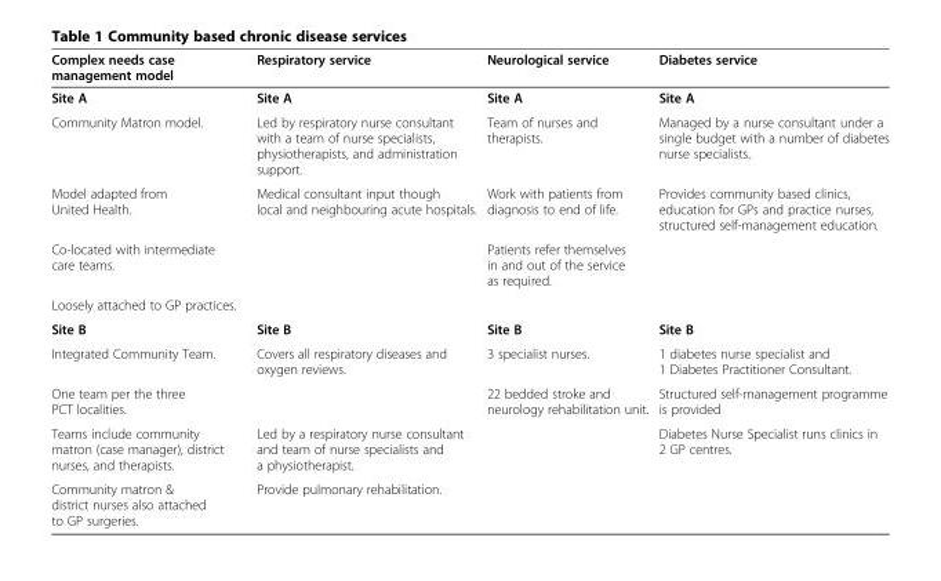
<table><thead><tr><td>Complex needs case management model</td><td>Respiratory service</td><td>Neurological service</td><td>Diabetes service</td></tr></thead><tbody><tr><td>Site A</td><td>Site A</td><td>Site A</td><td>Site A</td></tr><tr><td>Community Matron model.</td><td>Led by respiratory nurse consultant with a team of nurse specialists, physiotherapists, and administration support.</td><td>Team of nurses and therapists.</td><td>Managed by a nurse consultant under a single budget with a number of diabetes nurse specialists.</td></tr><tr><td>Model adapted from United Health.</td><td>Medical consultant input though local and neighbouring acute hospitals.</td><td>Work with patients from diagnosis to end of life.</td><td>Provides community based clinics, education for GPs and practice nurses, structured self-management education.</td></tr><tr><td>Co-located with intermediate care teams.</td><td></td><td>Patients refer themselves in and out of the service as required.</td><td></td></tr><tr><td colspan="4">Loosely attached to GP practices.</td></tr><tr><td>Site B</td><td>Site B</td><td>Site B</td><td>Site B</td></tr><tr><td>Integrated Community Team.</td><td>Covers all respiratory diseases and oxygen reviews.</td><td>3 specialist nurses.</td><td>1 diabetes nurse specialist and 1 Diabetes Practitioner Consultant.</td></tr><tr><td>One team per the three PCT localities.</td><td></td><td>22 bedded stroke and neurology rehabilitation unit.</td><td>Structured self-management programme is provided</td></tr><tr><td>Teams include community matron (case manager), district nurses, and therapists.</td><td>Led by a respiratory nurse consultant and team of nurse specialists and a physiotherapist.</td><td></td><td>Diabetes Nurse Specialist runs clinics in 2 GP centres.</td></tr><tr><td>Community matron &amp; district nurses also attached to GP surgeries.</td><td>Provide pulmonary rehabilitation.</td><td></td><td></td></tr></tbody></table>